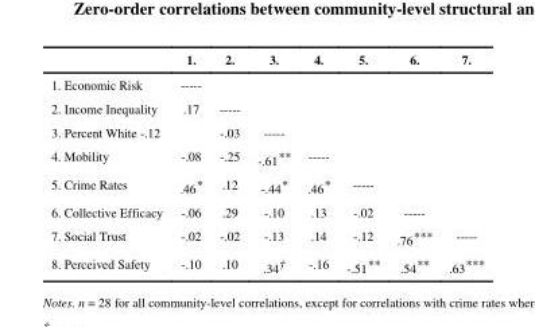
<table><thead><tr><td></td><td>1.</td><td>2.</td><td>3.</td><td>4.</td><td>5.</td><td>6.</td><td>7.</td></tr></thead><tbody><tr><td>1. Economic Risk</td><td>-----</td><td></td><td></td><td></td><td></td><td></td><td></td></tr><tr><td>2. Income Inequality</td><td>.17</td><td>-----</td><td></td><td></td><td></td><td></td><td></td></tr><tr><td>3. Percent White -.12</td><td></td><td>-.03</td><td>-----</td><td></td><td></td><td></td><td></td></tr><tr><td>4. Mobility</td><td>-.08</td><td>-.25</td><td>-.61**</td><td>-----</td><td></td><td></td><td></td></tr><tr><td>5. Crime Rates</td><td>.46*</td><td>.12</td><td>-.44*</td><td>.46*</td><td>-----</td><td></td><td></td></tr><tr><td>6. Collective Efficacy</td><td>-.06</td><td>.29</td><td>-.10</td><td>.13</td><td>-.02</td><td>-----</td><td></td></tr><tr><td>7. Social Trust</td><td>-.02</td><td>-.02</td><td>-.13</td><td>.14</td><td>-.12</td><td>.76***</td><td>-----</td></tr><tr><td>8. Perceived Safety</td><td>-.10</td><td>.10</td><td>.34†</td><td>-.16</td><td>-.51**</td><td>.54**</td><td>.63***</td></tr></tbody></table>